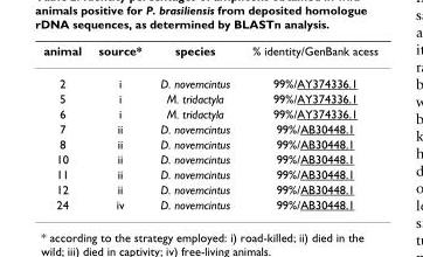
<table><thead><tr><td>animal</td><td>source*</td><td>species</td><td>% identity/GenBank acess</td></tr></thead><tbody><tr><td>2</td><td>i</td><td>D. novemcintus</td><td>99%/AY374336.1</td></tr><tr><td>5</td><td>i</td><td>M. tridactyla</td><td>99%/AY374336.1</td></tr><tr><td>6</td><td>i</td><td>M. tridactyla</td><td>99%/AY374336.1</td></tr><tr><td>7</td><td>ii</td><td>D. novemcintus</td><td>99%/AB30448.1</td></tr><tr><td>8</td><td>ii</td><td>D. novemcintus</td><td>99%/AB30448.1</td></tr><tr><td>10</td><td>ii</td><td>D. novemcintus</td><td>99%/AB30448.1</td></tr><tr><td>11</td><td>ii</td><td>D. novemcintus</td><td>99%/AB30448.1</td></tr><tr><td>12</td><td>ii</td><td>D. novemcintus</td><td>99%/AB30448.1</td></tr><tr><td>24</td><td>iv</td><td>D. novemcintus</td><td>99%/AB30448.1</td></tr></tbody></table>